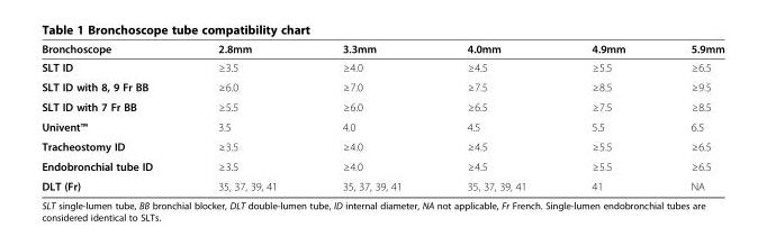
<table><thead><tr><td>Bronchoscope</td><td>2.8mm</td><td>3.3mm</td><td>4.0mm</td><td>4.9mm</td><td>5.9mm</td></tr></thead><tbody><tr><td>SLT ID</td><td>≥3.5</td><td>≥4.0</td><td>≥4.5</td><td>≥5.5</td><td>≥6.5</td></tr><tr><td>SLT ID with 8, 9 Fr BB</td><td>≥6.0</td><td>≥7.0</td><td>≥7.5</td><td>≥8.5</td><td>≥9.5</td></tr><tr><td>SLT ID with 7 Fr BB</td><td>≥5.5</td><td>≥6.0</td><td>≥6.5</td><td>≥7.5</td><td>≥8.5</td></tr><tr><td>Univent™</td><td>3.5</td><td>4.0</td><td>4.5</td><td>5.5</td><td>6.5</td></tr><tr><td>Tracheostomy ID</td><td>≥3.5</td><td>≥4.0</td><td>≥4.5</td><td>≥5.5</td><td>≥6.5</td></tr><tr><td>Endobronchial tube ID</td><td>≥3.5</td><td>≥4.0</td><td>≥4.5</td><td>≥5.5</td><td>≥6.5</td></tr><tr><td>DLT (Fr)</td><td>35, 37, 39, 41</td><td>35, 37, 39, 41</td><td>35, 37, 39, 41</td><td>41</td><td>NA</td></tr></tbody></table>